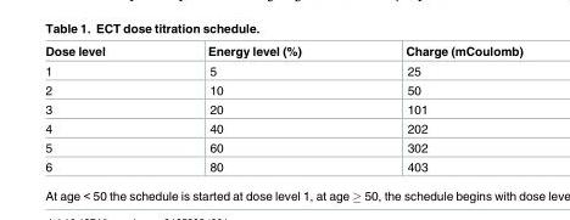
<table><thead><tr><td>Dose level</td><td>Energy level (%)</td><td>Charge (mCoulomb)</td></tr></thead><tbody><tr><td>1</td><td>5</td><td>25</td></tr><tr><td>2</td><td>10</td><td>50</td></tr><tr><td>3</td><td>20</td><td>101</td></tr><tr><td>4</td><td>40</td><td>202</td></tr><tr><td>5</td><td>60</td><td>302</td></tr><tr><td>6</td><td>80</td><td>403</td></tr></tbody></table>